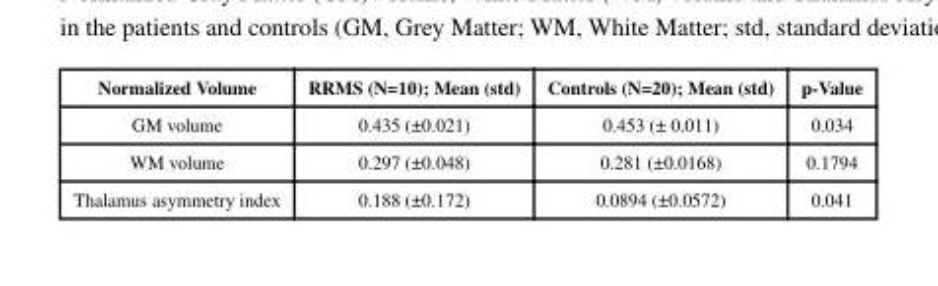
<table><thead><tr><td>Normalized Volume</td><td>RRMS (N=10); Mean (std)</td><td>Controls (N=20); Mean (std)</td><td>p-Value</td></tr></thead><tbody><tr><td>GM volume</td><td>0.435 (±0.021)</td><td>0.453 (± 0.011)</td><td>0.034</td></tr><tr><td>WM volume</td><td>0.297 (±0.048)</td><td>0.281 (±0.0168)</td><td>0.1794</td></tr><tr><td>Thalamus asymmetry index</td><td>0.188 (±0.172)</td><td>0.0894 (±0.0572)</td><td>0.041</td></tr></tbody></table>